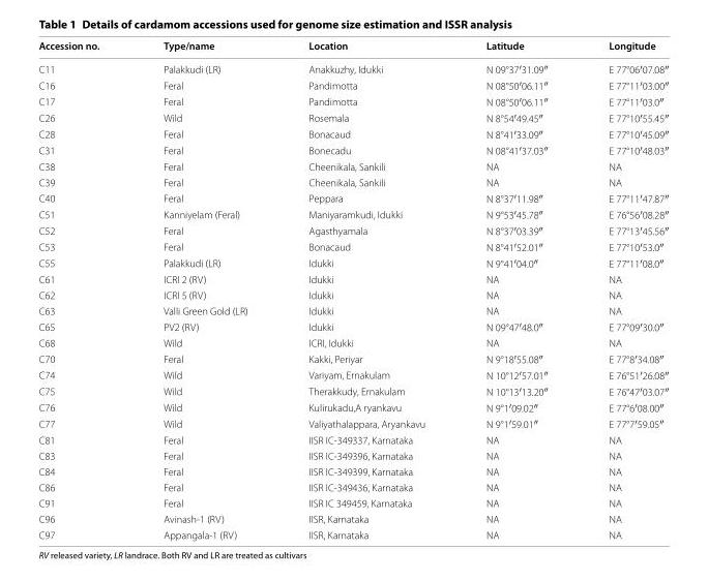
<table><thead><tr><td>Accession no.</td><td>Type/name</td><td>Location</td><td>Latitude</td><td>Longitude</td></tr></thead><tbody><tr><td>C11</td><td>Palakkudi (LR)</td><td>Anakkuzhy, Idukki</td><td>N 09°37′31.09″</td><td>E 77°06′07.08″</td></tr><tr><td>C16</td><td>Feral</td><td>Pandimotta</td><td>N 08°50′06.11″</td><td>E 77°11′03.00″</td></tr><tr><td>C17</td><td>Feral</td><td>Pandimotta</td><td>N 08°50′06.11″</td><td>E 77°11′03.0″</td></tr><tr><td>C26</td><td>Wild</td><td>Rosemala</td><td>N 8°54′49.45″</td><td>E 77°10′55.45″</td></tr><tr><td>C28</td><td>Feral</td><td>Bonacaud</td><td>N 8°41′33.09″</td><td>E 77°10′45.09″</td></tr><tr><td>C31</td><td>Feral</td><td>Bonecadu</td><td>N 08°41′37.03″</td><td>E 77°10′48.03″</td></tr><tr><td>C38</td><td>Feral</td><td>Cheenikala, Sankili</td><td>NA</td><td>NA</td></tr><tr><td>C39</td><td>Feral</td><td>Cheenikala, Sankili</td><td>NA</td><td>NA</td></tr><tr><td>C40</td><td>Feral</td><td>Peppara</td><td>N 8°37′11.98″</td><td>E 77°11′47.87″</td></tr><tr><td>C51</td><td>Kanniyelam (Feral)</td><td>Maniyaramkudi, Idukki</td><td>N 9°53′45.78″</td><td>E 76°56′08.28″</td></tr><tr><td>C52</td><td>Feral</td><td>Agasthyamala</td><td>N 8°37′03.39″</td><td>E 77°13′45.56″</td></tr><tr><td>C53</td><td>Feral</td><td>Bonacaud</td><td>N 8°41′52.01″</td><td>E 77°10′53.0″</td></tr><tr><td>C55</td><td>Palakkudi (LR)</td><td>Idukki</td><td>N 9°41′04.0″</td><td>E 77°11′08.0″</td></tr><tr><td>C61</td><td>ICRI 2 (RV)</td><td>Idukki</td><td>NA</td><td>NA</td></tr><tr><td>C62</td><td>ICRI 5 (RV)</td><td>Idukki</td><td>NA</td><td>NA</td></tr><tr><td>C63</td><td>Valli Green Gold (LR)</td><td>Idukki</td><td>NA</td><td>NA</td></tr><tr><td>C65</td><td>PV2 (RV)</td><td>Idukki</td><td>N 09°47′48.0″</td><td>E 77°09′30.0″</td></tr><tr><td>C68</td><td>Wild</td><td>ICRI, Idukki</td><td>NA</td><td>NA</td></tr><tr><td>C70</td><td>Feral</td><td>Kakki, Periyar</td><td>N 9°18′55.08″</td><td>E 77°8′34.08″</td></tr><tr><td>C74</td><td>Wild</td><td>Variyam, Ernakulam</td><td>N 10°12′57.01″</td><td>E 76°51′26.08″</td></tr><tr><td>C75</td><td>Wild</td><td>Therakkudy, Ernakulam</td><td>N 10°13′13.20″</td><td>E 76°47′03.07″</td></tr><tr><td>C76</td><td>Wild</td><td>Kulirukadu,A ryankavu</td><td>N 9°1′09.02″</td><td>E 77°6′08.00″</td></tr><tr><td>C77</td><td>Wild</td><td>Valiyathalappara, Aryankavu</td><td>N 9°1′59.01″</td><td>E 77°7′59.05″</td></tr><tr><td>C81</td><td>Feral</td><td>IISR IC-349337, Karnataka</td><td>NA</td><td>NA</td></tr><tr><td>C83</td><td>Feral</td><td>IISR IC-349396, Karnataka</td><td>NA</td><td>NA</td></tr><tr><td>C84</td><td>Feral</td><td>IISR IC-349399, Karnataka</td><td>NA</td><td>NA</td></tr><tr><td>C86</td><td>Feral</td><td>IISR IC-349436, Karnataka</td><td>NA</td><td>NA</td></tr><tr><td>C91</td><td>Feral</td><td>IISR IC 349459, Karnataka</td><td>NA</td><td>NA</td></tr><tr><td>C96</td><td>Avinash-1 (RV)</td><td>IISR, Karnataka</td><td>NA</td><td>NA</td></tr><tr><td>C97</td><td>Appangala-1 (RV)</td><td>IISR, Karnataka</td><td>NA</td><td>NA</td></tr></tbody></table>